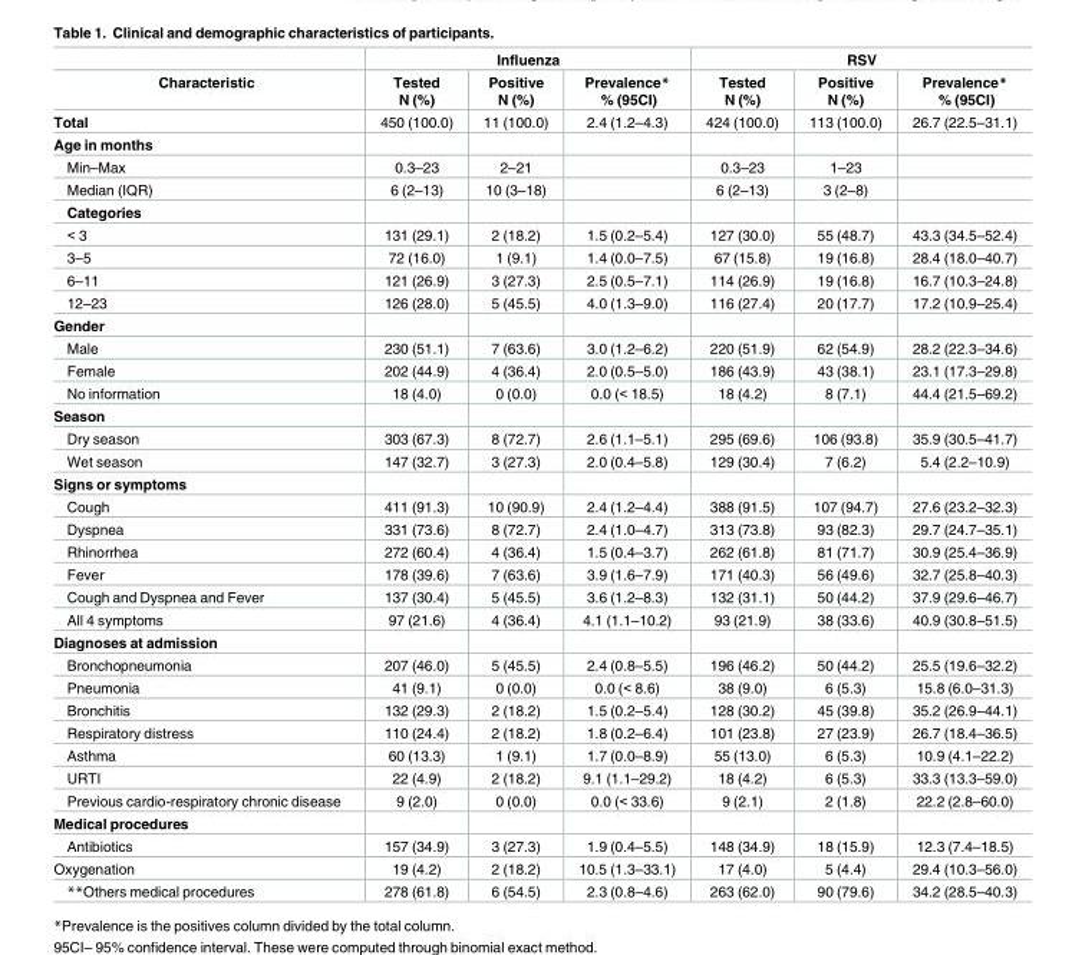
<table><thead><tr><td rowspan="2">Characteristic</td><td colspan="3">Influenza</td><td colspan="3">RSV</td></tr><tr><td>Tested N (%)</td><td>Positive N (%)</td><td>Prevalence* % (95CI)</td><td>Tested N (%)</td><td>Positive N (%)</td><td>Prevalence* % (95CI)</td></tr></thead><tbody><tr><td>Total</td><td>450 (100.0)</td><td>11 (100.0)</td><td>2.4 (1.2–4.3)</td><td>424 (100.0)</td><td>113 (100.0)</td><td>26.7 (22.5–31.1)</td></tr><tr><td colspan="7">Age in months</td></tr><tr><td>Min–Max</td><td>0.3–23</td><td>2–21</td><td></td><td>0.3–23</td><td>1–23</td><td></td></tr><tr><td>Median (IQR)</td><td>6 (2–13)</td><td>10 (3–18)</td><td></td><td>6 (2–13)</td><td>3 (2–8)</td><td></td></tr><tr><td colspan="7">Categories</td></tr><tr><td>&lt; 3</td><td>131 (29.1)</td><td>2 (18.2)</td><td>1.5 (0.2–5.4)</td><td>127 (30.0)</td><td>55 (48.7)</td><td>43.3 (34.5–52.4)</td></tr><tr><td>3–5</td><td>72 (16.0)</td><td>1 (9.1)</td><td>1.4 (0.0–7.5)</td><td>67 (15.8)</td><td>19 (16.8)</td><td>28.4 (18.0–40.7)</td></tr><tr><td>6–11</td><td>121 (26.9)</td><td>3 (27.3)</td><td>2.5 (0.5–7.1)</td><td>114 (26.9)</td><td>19 (16.8)</td><td>16.7 (10.3–24.8)</td></tr><tr><td>12–23</td><td>126 (28.0)</td><td>5 (45.5)</td><td>4.0 (1.3–9.0)</td><td>116 (27.4)</td><td>20 (17.7)</td><td>17.2 (10.9–25.4)</td></tr><tr><td colspan="7">Gender</td></tr><tr><td>Male</td><td>230 (51.1)</td><td>7 (63.6)</td><td>3.0 (1.2–6.2)</td><td>220 (51.9)</td><td>62 (54.9)</td><td>28.2 (22.3–34.6)</td></tr><tr><td>Female</td><td>202 (44.9)</td><td>4 (36.4)</td><td>2.0 (0.5–5.0)</td><td>186 (43.9)</td><td>43 (38.1)</td><td>23.1 (17.3–29.8)</td></tr><tr><td>No information</td><td>18 (4.0)</td><td>0 (0.0)</td><td>0.0 (&lt; 18.5)</td><td>18 (4.2)</td><td>8 (7.1)</td><td>44.4 (21.5–69.2)</td></tr><tr><td colspan="7">Season</td></tr><tr><td>Dry season</td><td>303 (67.3)</td><td>8 (72.7)</td><td>2.6 (1.1–5.1)</td><td>295 (69.6)</td><td>106 (93.8)</td><td>35.9 (30.5–41.7)</td></tr><tr><td>Wet season</td><td>147 (32.7)</td><td>3 (27.3)</td><td>2.0 (0.4–5.8)</td><td>129 (30.4)</td><td>7 (6.2)</td><td>5.4 (2.2–10.9)</td></tr><tr><td colspan="7">Signs or symptoms</td></tr><tr><td>Cough</td><td>411 (91.3)</td><td>10 (90.9)</td><td>2.4 (1.2–4.4)</td><td>388 (91.5)</td><td>107 (94.7)</td><td>27.6 (23.2–32.3)</td></tr><tr><td>Dyspnea</td><td>331 (73.6)</td><td>8 (72.7)</td><td>2.4 (1.0–4.7)</td><td>313 (73.8)</td><td>93 (82.3)</td><td>29.7 (24.7–35.1)</td></tr><tr><td>Rhinorrhea</td><td>272 (60.4)</td><td>4 (36.4)</td><td>1.5 (0.4–3.7)</td><td>262 (61.8)</td><td>81 (71.7)</td><td>30.9 (25.4–36.9)</td></tr><tr><td>Fever</td><td>178 (39.6)</td><td>7 (63.6)</td><td>3.9 (1.6–7.9)</td><td>171 (40.3)</td><td>56 (49.6)</td><td>32.7 (25.8–40.3)</td></tr><tr><td>Cough and Dyspnea and Fever</td><td>137 (30.4)</td><td>5 (45.5)</td><td>3.6 (1.2–8.3)</td><td>132 (31.1)</td><td>50 (44.2)</td><td>37.9 (29.6–46.7)</td></tr><tr><td>All 4 symptoms</td><td>97 (21.6)</td><td>4 (36.4)</td><td>4.1 (1.1–10.2)</td><td>93 (21.9)</td><td>38 (33.6)</td><td>40.9 (30.8–51.5)</td></tr><tr><td colspan="7">Diagnoses at admission</td></tr><tr><td>Bronchopneumonia</td><td>207 (46.0)</td><td>5 (45.5)</td><td>2.4 (0.8–5.5)</td><td>196 (46.2)</td><td>50 (44.2)</td><td>25.5 (19.6–32.2)</td></tr><tr><td>Pneumonia</td><td>41 (9.1)</td><td>0 (0.0)</td><td>0.0 (&lt; 8.6)</td><td>38 (9.0)</td><td>6 (5.3)</td><td>15.8 (6.0–31.3)</td></tr><tr><td>Bronchitis</td><td>132 (29.3)</td><td>2 (18.2)</td><td>1.5 (0.2–5.4)</td><td>128 (30.2)</td><td>45 (39.8)</td><td>35.2 (26.9–44.1)</td></tr><tr><td>Respiratory distress</td><td>110 (24.4)</td><td>2 (18.2)</td><td>1.8 (0.2–6.4)</td><td>101 (23.8)</td><td>27 (23.9)</td><td>26.7 (18.4–36.5)</td></tr><tr><td>Asthma</td><td>60 (13.3)</td><td>1 (9.1)</td><td>1.7 (0.0–8.9)</td><td>55 (13.0)</td><td>6 (5.3)</td><td>10.9 (4.1–22.2)</td></tr><tr><td>URTI</td><td>22 (4.9)</td><td>2 (18.2)</td><td>9.1 (1.1–29.2)</td><td>18 (4.2)</td><td>6 (5.3)</td><td>33.3 (13.3–59.0)</td></tr><tr><td>Previous cardio-respiratory chronic disease</td><td>9 (2.0)</td><td>0 (0.0)</td><td>0.0 (&lt; 33.6)</td><td>9 (2.1)</td><td>2 (1.8)</td><td>22.2 (2.8–60.0)</td></tr><tr><td colspan="7">Medical procedures</td></tr><tr><td>Antibiotics</td><td>157 (34.9)</td><td>3 (27.3)</td><td>1.9 (0.4–5.5)</td><td>148 (34.9)</td><td>18 (15.9)</td><td>12.3 (7.4–18.5)</td></tr><tr><td>Oxygenation</td><td>19 (4.2)</td><td>2 (18.2)</td><td>10.5 (1.3–33.1)</td><td>17 (4.0)</td><td>5 (4.4)</td><td>29.4 (10.3–56.0)</td></tr><tr><td>**Others medical procedures</td><td>278 (61.8)</td><td>6 (54.5)</td><td>2.3 (0.8–4.6)</td><td>263 (62.0)</td><td>90 (79.6)</td><td>34.2 (28.5–40.3)</td></tr></tbody></table>